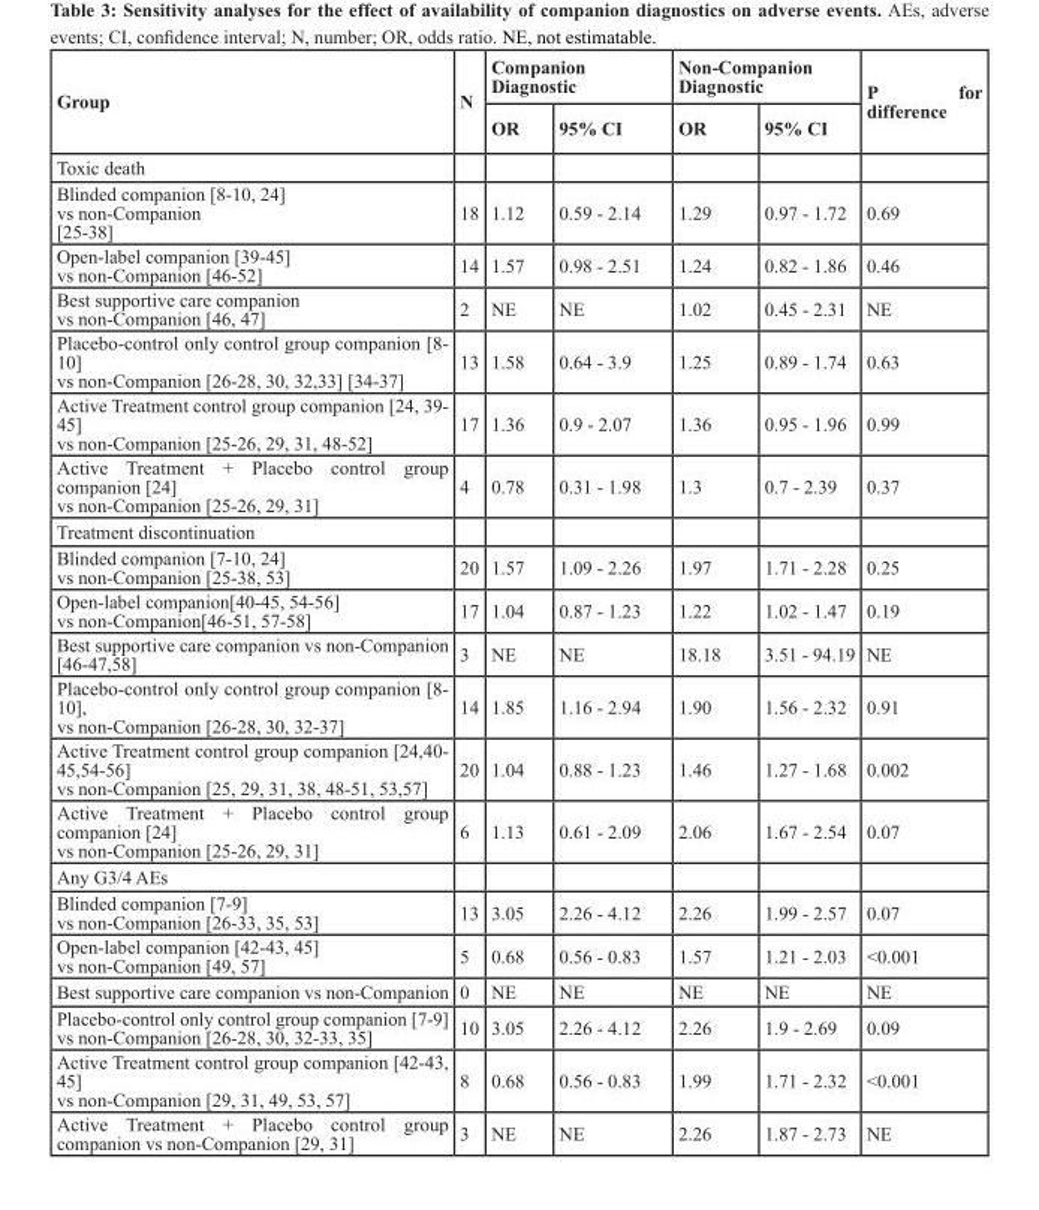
<table><thead><tr><td rowspan="2">Group</td><td rowspan="2">N</td><td colspan="2">Companion Diagnostic</td><td colspan="2">Non-Companion Diagnostic</td><td rowspan="2">P for difference</td></tr><tr><td>OR</td><td>95% CI</td><td>OR</td><td>95% CI</td></tr></thead><tbody><tr><td colspan="7">Toxic death</td></tr><tr><td>Blinded companion [8-10, 24] vs non-Companion [25-38]</td><td>18</td><td>1.12</td><td>0.59 - 2.14</td><td>1.29</td><td>0.97 - 1.72</td><td>0.69</td></tr><tr><td>Open-label companion [39-45] vs non-Companion [46-52]</td><td>14</td><td>1.57</td><td>0.98 - 2.51</td><td>1.24</td><td>0.82 - 1.86</td><td>0.46</td></tr><tr><td>Best supportive care companion vs non-Companion [46, 47]</td><td>2</td><td>NE</td><td>NE</td><td>1.02</td><td>0.45 - 2.31</td><td>NE</td></tr><tr><td>Placebo-control only control group companion [8- 10] vs non-Companion [26-28, 30, 32,33] [34-37]</td><td>13</td><td>1.58</td><td>0.64 - 3.9</td><td>1.25</td><td>0.89 - 1.74</td><td>0.63</td></tr><tr><td>Active Treatment control group companion [24, 39- 45] vs non-Companion [25-26, 29, 31, 48-52]</td><td>17</td><td>1.36</td><td>0.9 - 2.07</td><td>1.36</td><td>0.95 - 1.96</td><td>0.99</td></tr><tr><td>Active Treatment + Placebo control group companion [24] vs non-Companion [25-26, 29, 31]</td><td>4</td><td>0.78</td><td>0.31 - 1.98</td><td>1.3</td><td>0.7 - 2.39</td><td>0.37</td></tr><tr><td colspan="7">Treatment discontinuation</td></tr><tr><td>Blinded companion [7-10, 24] vs non-Companion [25-38, 53]</td><td>20</td><td>1.57</td><td>1.09 - 2.26</td><td>1.97</td><td>1.71 - 2.28</td><td>0.25</td></tr><tr><td>Open-label companion[40-45, 54-56] vs non-Companion[46-51, 57-58]</td><td>17</td><td>1.04</td><td>0.87 - 1.23</td><td>1.22</td><td>1.02 - 1.47</td><td>0.19</td></tr><tr><td>Best supportive care companion vs non-Companion [46-47,58]</td><td>3</td><td>NE</td><td>NE</td><td>18.18</td><td>3.51 - 94.19</td><td>NE</td></tr><tr><td>Placebo-control only control group companion [8- 10], vs non-Companion [26-28, 30, 32-37]</td><td>14</td><td>1.85</td><td>1.16 - 2.94</td><td>1.90</td><td>1.56 - 2.32</td><td>0.91</td></tr><tr><td>Active Treatment control group companion [24,40- 45,54-56] vs non-Companion [25, 29, 31, 38, 48-51, 53,57]</td><td>20</td><td>1.04</td><td>0.88 - 1.23</td><td>1.46</td><td>1.27 - 1.68</td><td>0.002</td></tr><tr><td>Active Treatment + Placebo control group companion [24] vs non-Companion [25-26, 29, 31]</td><td>6</td><td>1.13</td><td>0.61 - 2.09</td><td>2.06</td><td>1.67 - 2.54</td><td>0.07</td></tr><tr><td colspan="7">Any G3/4 AEs</td></tr><tr><td>Blinded companion [7-9] vs non-Companion [26-33, 35, 53]</td><td>13</td><td>3.05</td><td>2.26 - 4.12</td><td>2.26</td><td>1.99 - 2.57</td><td>0.07</td></tr><tr><td>Open-label companion [42-43, 45] vs non-Companion [49, 57]</td><td>5</td><td>0.68</td><td>0.56 - 0.83</td><td>1.57</td><td>1.21 - 2.03</td><td>&lt;0.001</td></tr><tr><td>Best supportive care companion vs non-Companion</td><td>0</td><td>NE</td><td>NE</td><td>NE</td><td>NE</td><td>NE</td></tr><tr><td>Placebo-control only control group companion [7-9] vs non-Companion [26-28, 30, 32-33, 35]</td><td>10</td><td>3.05</td><td>2.26 - 4.12</td><td>2.26</td><td>1.9 - 2.69</td><td>0.09</td></tr><tr><td>Active Treatment control group companion [42-43, 45] vs non-Companion [29, 31, 49, 53, 57]</td><td>8</td><td>0.68</td><td>0.56 - 0.83</td><td>1.99</td><td>1.71 - 2.32</td><td>&lt;0.001</td></tr><tr><td>Active Treatment + Placebo control group companion vs non-Companion [29, 31]</td><td>3</td><td>NE</td><td>NE</td><td>2.26</td><td>1.87 - 2.73</td><td>NE</td></tr></tbody></table>